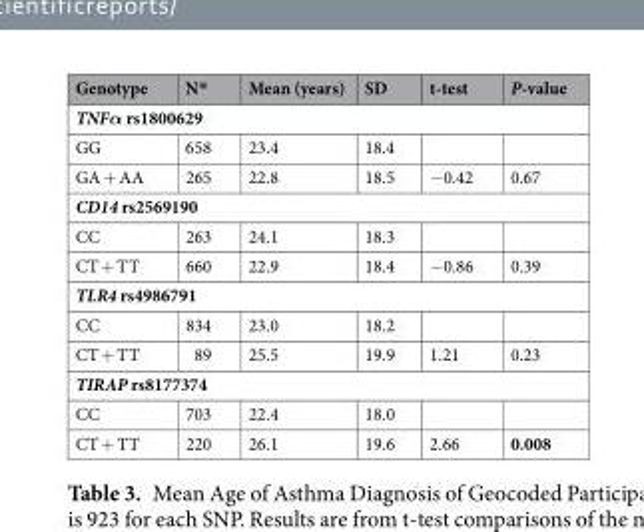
<table><thead><tr><td>Genotype</td><td>N*</td><td>Mean (years)</td><td>SD</td><td>t-test</td><td>P-value</td></tr></thead><tbody><tr><td colspan="6">TNFα rs1800629</td></tr><tr><td>GG</td><td>658</td><td>23.4</td><td>18.4</td><td></td><td></td></tr><tr><td>GA + AA</td><td>265</td><td>22.8</td><td>18.5</td><td>−0.42</td><td>0.67</td></tr><tr><td colspan="6">CD14 rs2569190</td></tr><tr><td>CC</td><td>263</td><td>24.1</td><td>18.3</td><td></td><td></td></tr><tr><td>CT + TT</td><td>660</td><td>22.9</td><td>18.4</td><td>−0.86</td><td>0.39</td></tr><tr><td colspan="6">TLR4 rs4986791</td></tr><tr><td>CC</td><td>834</td><td>23.0</td><td>18.2</td><td></td><td></td></tr><tr><td>CT + TT</td><td>89</td><td>25.5</td><td>19.9</td><td>1.21</td><td>0.23</td></tr><tr><td colspan="6">TIRAP rs8177374</td></tr><tr><td>CC</td><td>703</td><td>22.4</td><td>18.0</td><td></td><td></td></tr><tr><td>CT + TT</td><td>220</td><td>26.1</td><td>19.6</td><td>2.66</td><td>0.008</td></tr></tbody></table>